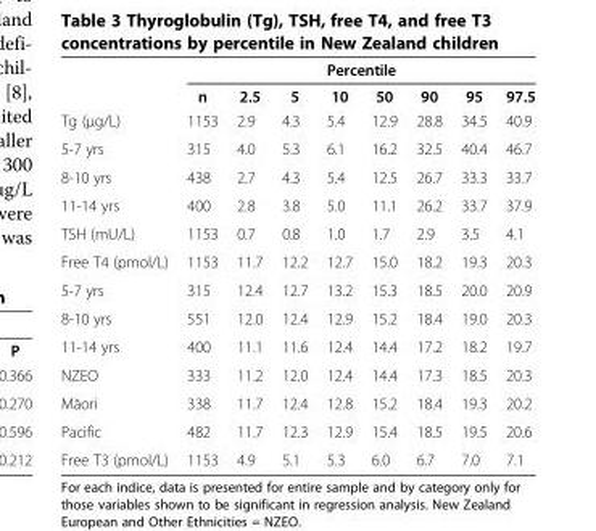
<table><thead><tr><td rowspan="2"></td><td colspan="8">Percentile</td></tr><tr><td>n</td><td>2.5</td><td>5</td><td>10</td><td>50</td><td>90</td><td>95</td><td>97.5</td></tr></thead><tbody><tr><td>Tg (μg/L)</td><td>1153</td><td>2.9</td><td>4.3</td><td>5.4</td><td>12.9</td><td>28.8</td><td>34.5</td><td>40.9</td></tr><tr><td>5-7 yrs</td><td>315</td><td>4.0</td><td>5.3</td><td>6.1</td><td>16.2</td><td>32.5</td><td>40.4</td><td>46.7</td></tr><tr><td>8-10 yrs</td><td>438</td><td>2.7</td><td>4.3</td><td>5.4</td><td>12.5</td><td>26.7</td><td>33.3</td><td>33.7</td></tr><tr><td>11-14 yrs</td><td>400</td><td>2.8</td><td>3.8</td><td>5.0</td><td>11.1</td><td>26.2</td><td>33.7</td><td>37.9</td></tr><tr><td>TSH (mU/L)</td><td>1153</td><td>0.7</td><td>0.8</td><td>1.0</td><td>1.7</td><td>2.9</td><td>3.5</td><td>4.1</td></tr><tr><td>Free T4 (pmol/L)</td><td>1153</td><td>11.7</td><td>12.2</td><td>12.7</td><td>15.0</td><td>18.2</td><td>19.3</td><td>20.3</td></tr><tr><td>5-7 yrs</td><td>315</td><td>12.4</td><td>12.7</td><td>13.2</td><td>15.3</td><td>18.5</td><td>20.0</td><td>20.9</td></tr><tr><td>8-10 yrs</td><td>551</td><td>12.0</td><td>12.4</td><td>12.9</td><td>15.2</td><td>18.4</td><td>19.0</td><td>20.3</td></tr><tr><td>11-14 yrs</td><td>400</td><td>11.1</td><td>11.6</td><td>12.4</td><td>14.4</td><td>17.2</td><td>18.2</td><td>19.7</td></tr><tr><td>NZEO</td><td>333</td><td>11.2</td><td>12.0</td><td>12.4</td><td>14.4</td><td>17.3</td><td>18.5</td><td>20.3</td></tr><tr><td>Māori</td><td>338</td><td>11.7</td><td>12.4</td><td>12.8</td><td>15.2</td><td>18.4</td><td>19.3</td><td>20.2</td></tr><tr><td>Pacific</td><td>482</td><td>11.7</td><td>12.3</td><td>12.9</td><td>15.4</td><td>18.5</td><td>19.5</td><td>20.6</td></tr><tr><td>Free T3 (pmol/L)</td><td>1153</td><td>4.9</td><td>5.1</td><td>5.3</td><td>6.0</td><td>6.7</td><td>7.0</td><td>7.1</td></tr></tbody></table>